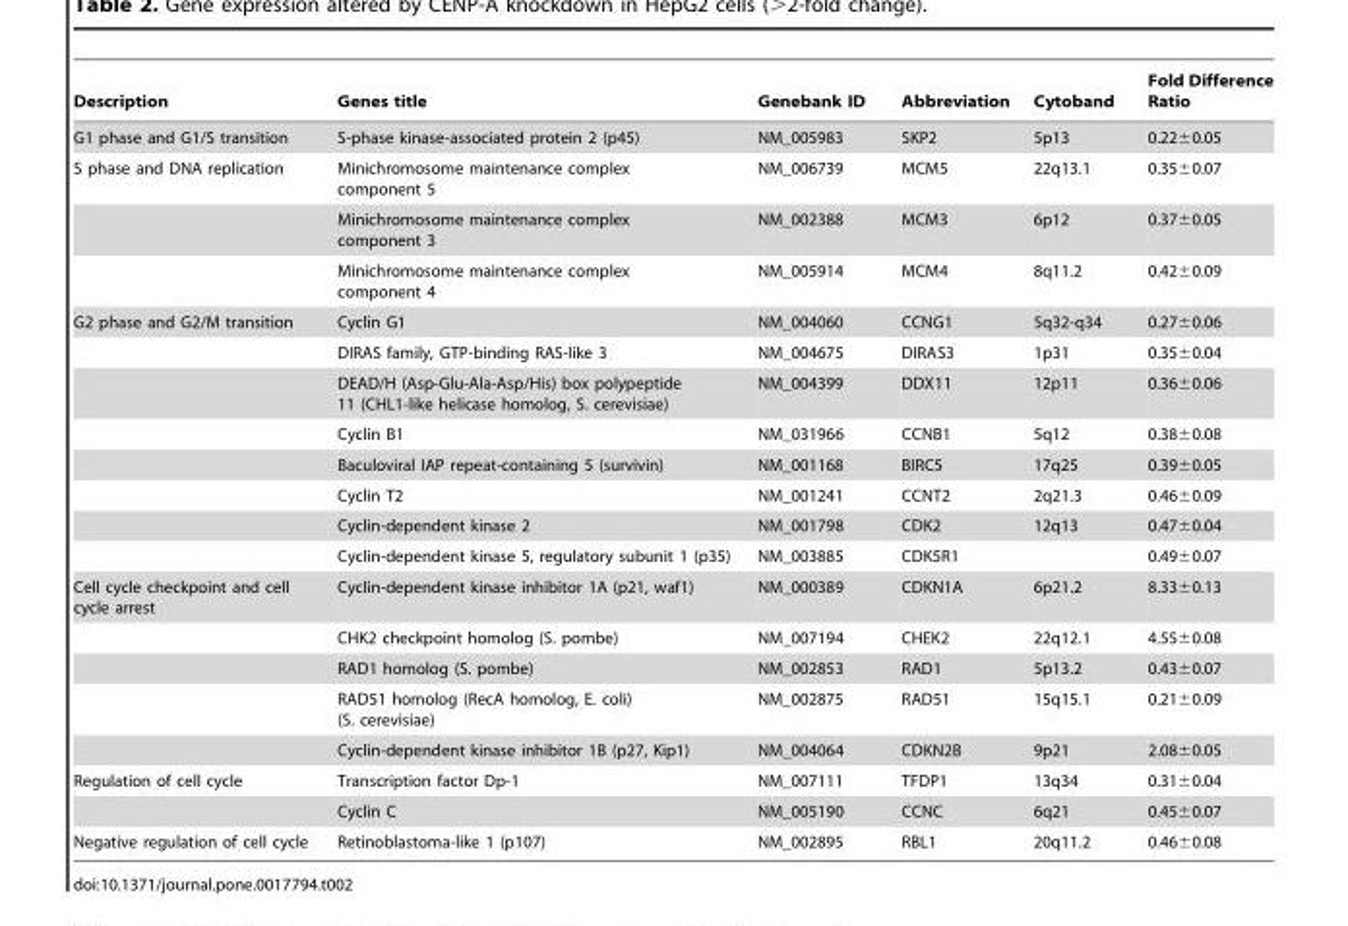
<table><thead><tr><td>Description</td><td>Genes title</td><td>Genebank ID</td><td>Abbreviation</td><td>Cytoband</td><td>Fold Difference Ratio</td></tr></thead><tbody><tr><td>G1 phase and G1/S transition</td><td>S-phase kinase-associated protein 2 (p45)</td><td>NM_005983</td><td>SKP2</td><td>5p13</td><td>0.22±0.05</td></tr><tr><td rowspan="3">S phase and DNA replication</td><td>Minichromosome maintenance complex component 5</td><td>NM_006739</td><td>MCM5</td><td>22q13.1</td><td>0.35±0.07</td></tr><tr><td>Minichromosome maintenance complex component 3</td><td>NM_002388</td><td>MCM3</td><td>6p12</td><td>0.37±0.05</td></tr><tr><td>Minichromosome maintenance complex component 4</td><td>NM_005914</td><td>MCM4</td><td>8q11.2</td><td>0.42±0.09</td></tr><tr><td rowspan="8">G2 phase and G2/M transition</td><td>Cyclin G1</td><td>NM_004060</td><td>CCNG1</td><td>5q32-q34</td><td>0.27±0.06</td></tr><tr><td>DIRAS family, GTP-binding RAS-like 3</td><td>NM_004675</td><td>DIRAS3</td><td>1p31</td><td>0.35±0.04</td></tr><tr><td>DEAD/H (Asp-Glu-Ala-Asp/His) box polypeptide 11 (CHL1-like helicase homolog, S. cerevisiae)</td><td>NM_004399</td><td>DDX11</td><td>12p11</td><td>0.36±0.06</td></tr><tr><td>Cyclin B1</td><td>NM_031966</td><td>CCNB1</td><td>5q12</td><td>0.38±0.08</td></tr><tr><td>Baculoviral IAP repeat-containing 5 (survivin)</td><td>NM_001168</td><td>BIRC5</td><td>17q25</td><td>0.39±0.05</td></tr><tr><td>Cyclin T2</td><td>NM_001241</td><td>CCNT2</td><td>2q21.3</td><td>0.46±0.09</td></tr><tr><td>Cyclin-dependent kinase 2</td><td>NM_001798</td><td>CDK2</td><td>12q13</td><td>0.47±0.04</td></tr><tr><td>Cyclin-dependent kinase 5, regulatory subunit 1 (p35)</td><td>NM_003885</td><td>CDK5R1</td><td></td><td>0.49±0.07</td></tr><tr><td rowspan="5">Cell cycle checkpoint and cell cycle arrest</td><td>Cyclin-dependent kinase inhibitor 1A (p21, waf1)</td><td>NM_000389</td><td>CDKN1A</td><td>6p21.2</td><td>8.33±0.13</td></tr><tr><td>CHK2 checkpoint homolog (S. pombe)</td><td>NM_007194</td><td>CHEK2</td><td>22q12.1</td><td>4.55±0.08</td></tr><tr><td>RAD1 homolog (S. pombe)</td><td>NM_002853</td><td>RAD1</td><td>5p13.2</td><td>0.43±0.07</td></tr><tr><td>RAD51 homolog (RecA homolog, E. coli) (S. cerevisiae)</td><td>NM_002875</td><td>RAD51</td><td>15q15.1</td><td>0.21±0.09</td></tr><tr><td>Cyclin-dependent kinase inhibitor 1B (p27, Kip1)</td><td>NM_004064</td><td>CDKN2B</td><td>9p21</td><td>2.08±0.05</td></tr><tr><td rowspan="2">Regulation of cell cycle</td><td>Transcription factor Dp-1</td><td>NM_007111</td><td>TFDP1</td><td>13q34</td><td>0.31±0.04</td></tr><tr><td>Cyclin C</td><td>NM_005190</td><td>CCNC</td><td>6q21</td><td>0.45±0.07</td></tr><tr><td>Negative regulation of cell cycle</td><td>Retinoblastoma-like 1 (p107)</td><td>NM_002895</td><td>RBL1</td><td>20q11.2</td><td>0.46±0.08</td></tr></tbody></table>